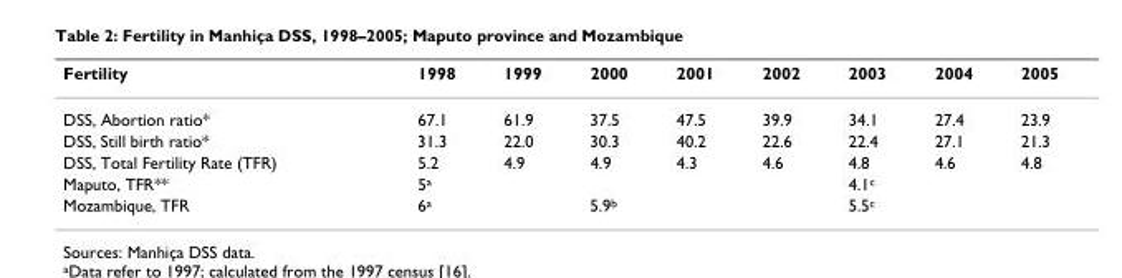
<table><thead><tr><td>Fertility</td><td>1998</td><td>1999</td><td>2000</td><td>2001</td><td>2002</td><td>2003</td><td>2004</td><td>2005</td></tr></thead><tbody><tr><td>DSS, Abortion ratio*</td><td>67.1</td><td>61.9</td><td>37.5</td><td>47.5</td><td>39.9</td><td>34.1</td><td>27.4</td><td>23.9</td></tr><tr><td>DSS, Still birth ratio*</td><td>31.3</td><td>22.0</td><td>30.3</td><td>40.2</td><td>22.6</td><td>22.4</td><td>27.1</td><td>21.3</td></tr><tr><td>DSS, Total Fertility Rate (TFR)</td><td>5.2</td><td>4.9</td><td>4.9</td><td>4.3</td><td>4.6</td><td>4.8</td><td>4.6</td><td>4.8</td></tr><tr><td>Maputo, TFR**</td><td>5a</td><td></td><td></td><td></td><td></td><td>4.1c</td><td></td><td></td></tr><tr><td>Mozambique, TFR</td><td>6a</td><td></td><td>5.9b</td><td></td><td></td><td>5.5c</td><td></td><td></td></tr></tbody></table>